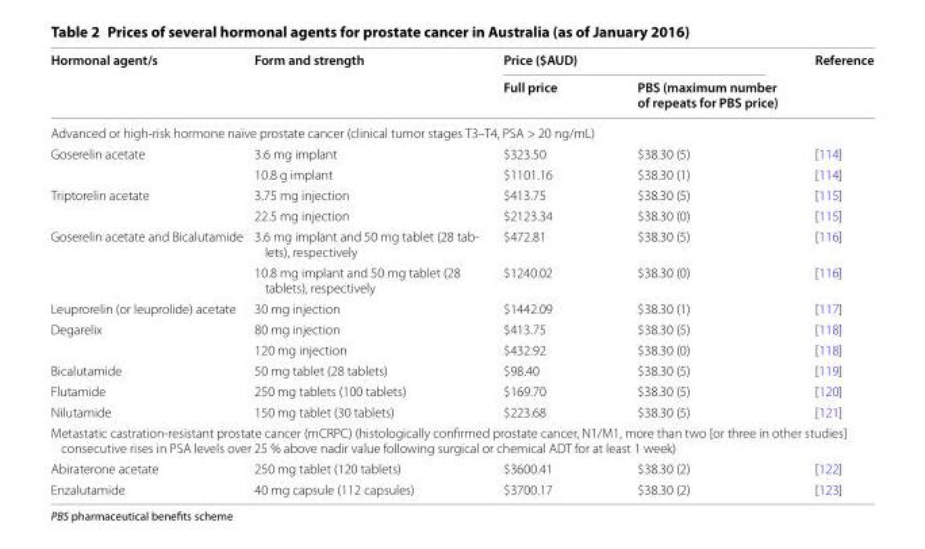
<table><thead><tr><td rowspan="2">Hormonal agent/s</td><td rowspan="2">Form and strength</td><td colspan="2">Price ($AUD)</td><td rowspan="2">Reference</td></tr><tr><td>Full price</td><td>PBS (maximum number of repeats for PBS price)</td></tr></thead><tbody><tr><td colspan="5">Advanced or high-risk hormone naïve prostate cancer (clinical tumor stages T3–T4, PSA &gt; 20 ng/mL)</td></tr><tr><td rowspan="2">Goserelin acetate</td><td>3.6 mg implant</td><td>$323.50</td><td>$38.30 (5)</td><td>[114]</td></tr><tr><td>10.8 g implant</td><td>$1101.16</td><td>$38.30 (1)</td><td>[114]</td></tr><tr><td rowspan="2">Triptorelin acetate</td><td>3.75 mg injection</td><td>$413.75</td><td>$38.30 (5)</td><td>[115]</td></tr><tr><td>22.5 mg injection</td><td>$2123.34</td><td>$38.30 (0)</td><td>[115]</td></tr><tr><td rowspan="2">Goserelin acetate and Bicalutamide</td><td>3.6 mg implant and 50 mg tablet (28 tab- lets), respectively</td><td>$472.81</td><td>$38.30 (5)</td><td>[116]</td></tr><tr><td>10.8 mg implant and 50 mg tablet (28 tablets), respectively</td><td>$1240.02</td><td>$38.30 (0)</td><td>[116]</td></tr><tr><td>Leuprorelin (or leuprolide) acetate</td><td>30 mg injection</td><td>$1442.09</td><td>$38.30 (1)</td><td>[117]</td></tr><tr><td rowspan="2">Degarelix</td><td>80 mg injection</td><td>$413.75</td><td>$38.30 (5)</td><td>[118]</td></tr><tr><td>120 mg injection</td><td>$432.92</td><td>$38.30 (0)</td><td>[118]</td></tr><tr><td>Bicalutamide</td><td>50 mg tablet (28 tablets)</td><td>$98.40</td><td>$38.30 (5)</td><td>[119]</td></tr><tr><td>Flutamide</td><td>250 mg tablets (100 tablets)</td><td>$169.70</td><td>$38.30 (5)</td><td>[120]</td></tr><tr><td>Nilutamide</td><td>150 mg tablet (30 tablets)</td><td>$223.68</td><td>$38.30 (5)</td><td>[121]</td></tr><tr><td colspan="5">Metastatic castration-resistant prostate cancer (mCRPC) (histologically confirmed prostate cancer, N1/M1, more than two [or three in other studies] consecutive rises in PSA levels over 25 % above nadir value following surgical or chemical ADT for at least 1 week)</td></tr><tr><td>Abiraterone acetate</td><td>250 mg tablet (120 tablets)</td><td>$3600.41</td><td>$38.30 (2)</td><td>[122]</td></tr><tr><td>Enzalutamide</td><td>40 mg capsule (112 capsules)</td><td>$3700.17</td><td>$38.30 (2)</td><td>[123]</td></tr></tbody></table>